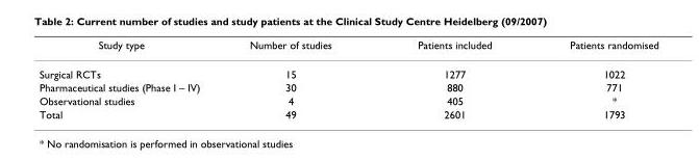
<table><thead><tr><td>Study type</td><td>Number of studies</td><td>Patients included</td><td>Patients randomised</td></tr></thead><tbody><tr><td>Surgical RCTs</td><td>15</td><td>1277</td><td>1022</td></tr><tr><td>Pharmaceutical studies (Phase I – IV)</td><td>30</td><td>880</td><td>771</td></tr><tr><td>Observational studies</td><td>4</td><td>405</td><td>*</td></tr><tr><td>Total</td><td>49</td><td>2601</td><td>1793</td></tr></tbody></table>